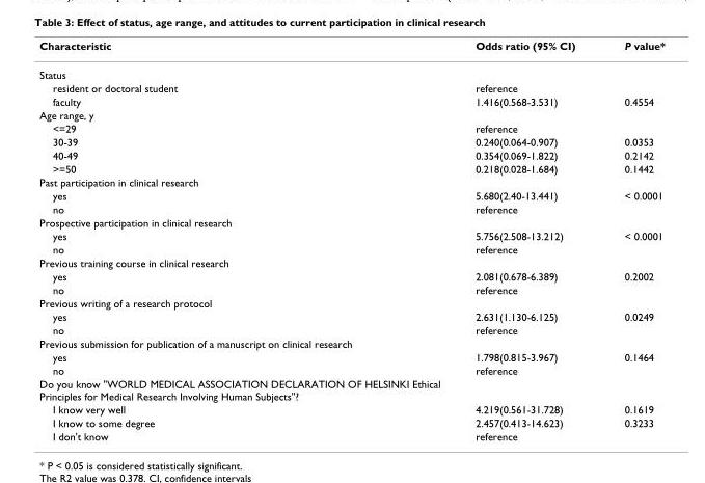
<table><thead><tr><td>Characteristic</td><td>Odds ratio (95% CI)</td><td>P value*</td></tr></thead><tbody><tr><td colspan="3">Status</td></tr><tr><td>resident or doctoral student</td><td>reference</td><td></td></tr><tr><td>faculty</td><td>1.416(0.568-3.531)</td><td>0.4554</td></tr><tr><td colspan="3">Age range, y</td></tr><tr><td>&lt;=29</td><td>reference</td><td></td></tr><tr><td>30-39</td><td>0.240(0.064-0.907)</td><td>0.0353</td></tr><tr><td>40-49</td><td>0.354(0.069-1.822)</td><td>0.2142</td></tr><tr><td>&gt;=50</td><td>0.218(0.028-1.684)</td><td>0.1442</td></tr><tr><td colspan="3">Past participation in clinical research</td></tr><tr><td>yes</td><td>5.680(2.40-13.441)</td><td>&lt; 0.0001</td></tr><tr><td>no</td><td>reference</td><td></td></tr><tr><td colspan="3">Prospective participation in clinical research</td></tr><tr><td>yes</td><td>5.756(2.508-13.212)</td><td>&lt; 0.0001</td></tr><tr><td>no</td><td>reference</td><td></td></tr><tr><td colspan="3">Previous training course in clinical research</td></tr><tr><td>yes</td><td>2.081(0.678-6.389)</td><td>0.2002</td></tr><tr><td>no</td><td>reference</td><td></td></tr><tr><td colspan="3">Previous writing of a research protocol</td></tr><tr><td>yes</td><td>2.631(1.130-6.125)</td><td>0.0249</td></tr><tr><td>no</td><td>reference</td><td></td></tr><tr><td colspan="3">Previous submission for publication of a manuscript on clinical research</td></tr><tr><td>yes</td><td>1.798(0.815-3.967)</td><td>0.1464</td></tr><tr><td>no</td><td>reference</td><td></td></tr><tr><td colspan="3">Do you know &quot;WORLD MEDICAL ASSOCIATION DECLARATION OF HELSINKI Ethical Principles for Medical Research Involving Human Subjects&quot;?</td></tr><tr><td>I know very well</td><td>4.219(0.561-31.728)</td><td>0.1619</td></tr><tr><td>I know to some degree</td><td>2.457(0.413-14.623)</td><td>0.3233</td></tr><tr><td>I don&#x27;t know</td><td>reference</td><td></td></tr></tbody></table>